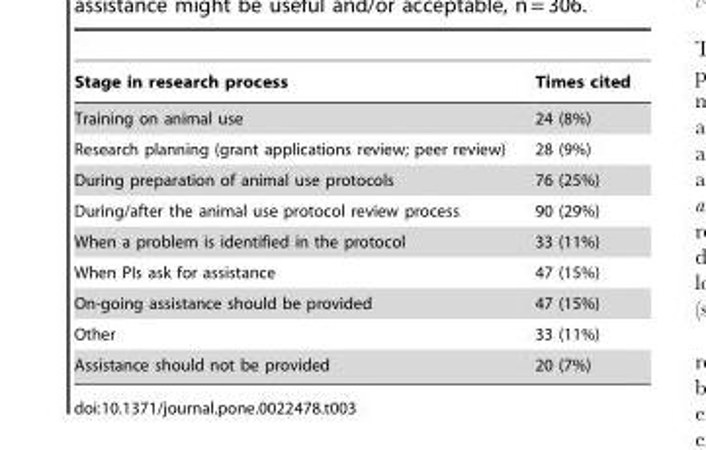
<table><thead><tr><td>Stage in research process</td><td>Times cited</td></tr></thead><tbody><tr><td>Training on animal use</td><td>24 (8%)</td></tr><tr><td>Research planning (grant applications review; peer review)</td><td>28 (9%)</td></tr><tr><td>During preparation of animal use protocols</td><td>76 (25%)</td></tr><tr><td>During/after the animal use protocol review process</td><td>90 (29%)</td></tr><tr><td>When a problem is identified in the protocol</td><td>33 (11%)</td></tr><tr><td>When PIs ask for assistance</td><td>47 (15%)</td></tr><tr><td>On-going assistance should be provided</td><td>47 (15%)</td></tr><tr><td>Other</td><td>33 (11%)</td></tr><tr><td>Assistance should not be provided</td><td>20 (7%)</td></tr></tbody></table>